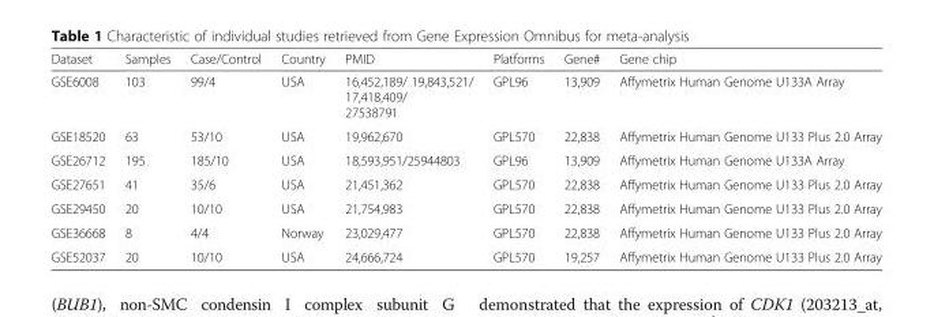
<table><thead><tr><td>Dataset</td><td>Samples</td><td>Case/Control</td><td>Country</td><td>PMID</td><td>Platforms</td><td>Gene#</td><td>Gene chip</td></tr></thead><tbody><tr><td>GSE6008</td><td>103</td><td>99/4</td><td>USA</td><td>16,452,189/ 19,843,521/ 17,418,409/ 27538791</td><td>GPL96</td><td>13,909</td><td>Affymetrix Human Genome U133A Array</td></tr><tr><td>GSE18520</td><td>63</td><td>53/10</td><td>USA</td><td>19,962,670</td><td>GPL570</td><td>22,838</td><td>Affymetrix Human Genome U133 Plus 2.0 Array</td></tr><tr><td>GSE26712</td><td>195</td><td>185/10</td><td>USA</td><td>18,593,951/25944803</td><td>GPL96</td><td>13,909</td><td>Affymetrix Human Genome U133A Array</td></tr><tr><td>GSE27651</td><td>41</td><td>35/6</td><td>USA</td><td>21,451,362</td><td>GPL570</td><td>22,838</td><td>Affymetrix Human Genome U133 Plus 2.0 Array</td></tr><tr><td>GSE29450</td><td>20</td><td>10/10</td><td>USA</td><td>21,754,983</td><td>GPL570</td><td>22,838</td><td>Affymetrix Human Genome U133 Plus 2.0 Array</td></tr><tr><td>GSE36668</td><td>8</td><td>4/4</td><td>Norway</td><td>23,029,477</td><td>GPL570</td><td>22,838</td><td>Affymetrix Human Genome U133 Plus 2.0 Array</td></tr><tr><td>GSE52037</td><td>20</td><td>10/10</td><td>USA</td><td>24,666,724</td><td>GPL570</td><td>19,257</td><td>Affymetrix Human Genome U133 Plus 2.0 Array</td></tr></tbody></table>